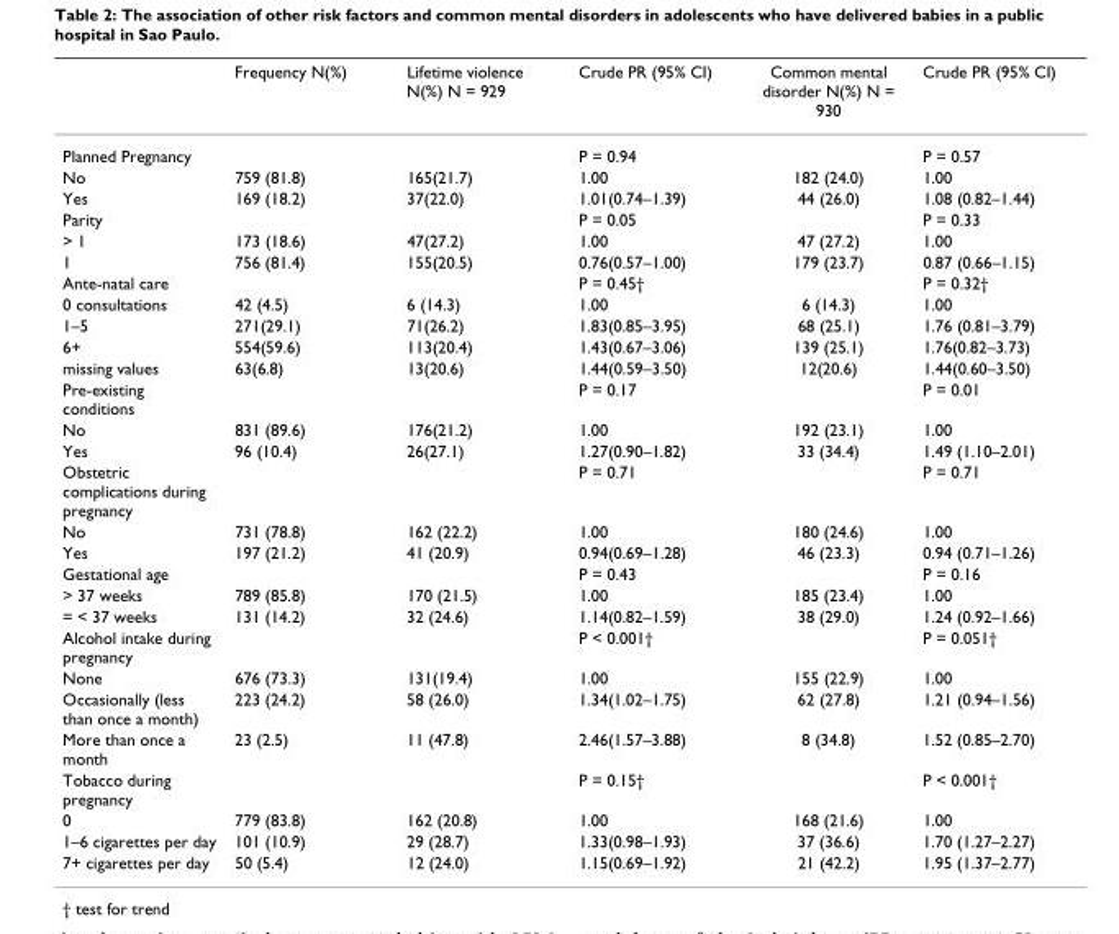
<table><thead><tr><td></td><td>Frequency N(%)</td><td>Lifetime violence N(%) N = 929</td><td>Crude PR (95% CI)</td><td>Common mental disorder N(%) N = 930</td><td>Crude PR (95% CI)</td></tr></thead><tbody><tr><td>Planned Pregnancy</td><td></td><td></td><td>P = 0.94</td><td></td><td>P = 0.57</td></tr><tr><td>No</td><td>759 (81.8)</td><td>165(21.7)</td><td>1.00</td><td>182 (24.0)</td><td>1.00</td></tr><tr><td>Yes</td><td>169 (18.2)</td><td>37(22.0)</td><td>1.01(0.74–1.39)</td><td>44 (26.0)</td><td>1.08 (0.82–1.44)</td></tr><tr><td>Parity</td><td></td><td></td><td>P = 0.05</td><td></td><td>P = 0.33</td></tr><tr><td>&gt; 1</td><td>173 (18.6)</td><td>47(27.2)</td><td>1.00</td><td>47 (27.2)</td><td>1.00</td></tr><tr><td>1</td><td>756 (81.4)</td><td>155(20.5)</td><td>0.76(0.57–1.00)</td><td>179 (23.7)</td><td>0.87 (0.66–1.15)</td></tr><tr><td>Ante-natal care</td><td></td><td></td><td>P = 0.45†</td><td></td><td>P = 0.32†</td></tr><tr><td>0 consultations</td><td>42 (4.5)</td><td>6 (14.3)</td><td>1.00</td><td>6 (14.3)</td><td>1.00</td></tr><tr><td>1–5</td><td>271(29.1)</td><td>71(26.2)</td><td>1.83(0.85–3.95)</td><td>68 (25.1)</td><td>1.76 (0.81–3.79)</td></tr><tr><td>6+</td><td>554(59.6)</td><td>113(20.4)</td><td>1.43(0.67–3.06)</td><td>139 (25.1)</td><td>1.76(0.82–3.73)</td></tr><tr><td>missing values</td><td>63(6.8)</td><td>13(20.6)</td><td>1.44(0.59–3.50)</td><td>12(20.6)</td><td>1.44(0.60–3.50)</td></tr><tr><td>Pre-existing conditions</td><td></td><td></td><td>P = 0.17</td><td></td><td>P = 0.01</td></tr><tr><td>No</td><td>831 (89.6)</td><td>176(21.2)</td><td>1.00</td><td>192 (23.1)</td><td>1.00</td></tr><tr><td>Yes</td><td>96 (10.4)</td><td>26(27.1)</td><td>1.27(0.90–1.82)</td><td>33 (34.4)</td><td>1.49 (1.10–2.01)</td></tr><tr><td>Obstetric complications during pregnancy</td><td></td><td></td><td>P = 0.71</td><td></td><td>P = 0.71</td></tr><tr><td>No</td><td>731 (78.8)</td><td>162 (22.2)</td><td>1.00</td><td>180 (24.6)</td><td>1.00</td></tr><tr><td>Yes</td><td>197 (21.2)</td><td>41 (20.9)</td><td>0.94(0.69–1.28)</td><td>46 (23.3)</td><td>0.94 (0.71–1.26)</td></tr><tr><td>Gestational age</td><td></td><td></td><td>P = 0.43</td><td></td><td>P = 0.16</td></tr><tr><td>&gt; 37 weeks</td><td>789 (85.8)</td><td>170 (21.5)</td><td>1.00</td><td>185 (23.4)</td><td>1.00</td></tr><tr><td>= &lt; 37 weeks</td><td>131 (14.2)</td><td>32 (24.6)</td><td>1.14(0.82–1.59)</td><td>38 (29.0)</td><td>1.24 (0.92–1.66)</td></tr><tr><td>Alcohol intake during pregnancy</td><td></td><td></td><td>P &lt; 0.001†</td><td></td><td>P = 0.051†</td></tr><tr><td>None</td><td>676 (73.3)</td><td>131(19.4)</td><td>1.00</td><td>155 (22.9)</td><td>1.00</td></tr><tr><td>Occasionally (less than once a month)</td><td>223 (24.2)</td><td>58 (26.0)</td><td>1.34(1.02–1.75)</td><td>62 (27.8)</td><td>1.21 (0.94–1.56)</td></tr><tr><td>More than once a month</td><td>23 (2.5)</td><td>11 (47.8)</td><td>2.46(1.57–3.88)</td><td>8 (34.8)</td><td>1.52 (0.85–2.70)</td></tr><tr><td>Tobacco during pregnancy</td><td></td><td></td><td>P = 0.15†</td><td></td><td>P &lt; 0.001†</td></tr><tr><td>0</td><td>779 (83.8)</td><td>162 (20.8)</td><td>1.00</td><td>168 (21.6)</td><td>1.00</td></tr><tr><td>1–6 cigarettes per day</td><td>101 (10.9)</td><td>29 (28.7)</td><td>1.33(0.98–1.93)</td><td>37 (36.6)</td><td>1.70 (1.27–2.27)</td></tr><tr><td>7+ cigarettes per day</td><td>50 (5.4)</td><td>12 (24.0)</td><td>1.15(0.69–1.92)</td><td>21 (42.2)</td><td>1.95 (1.37–2.77)</td></tr></tbody></table>